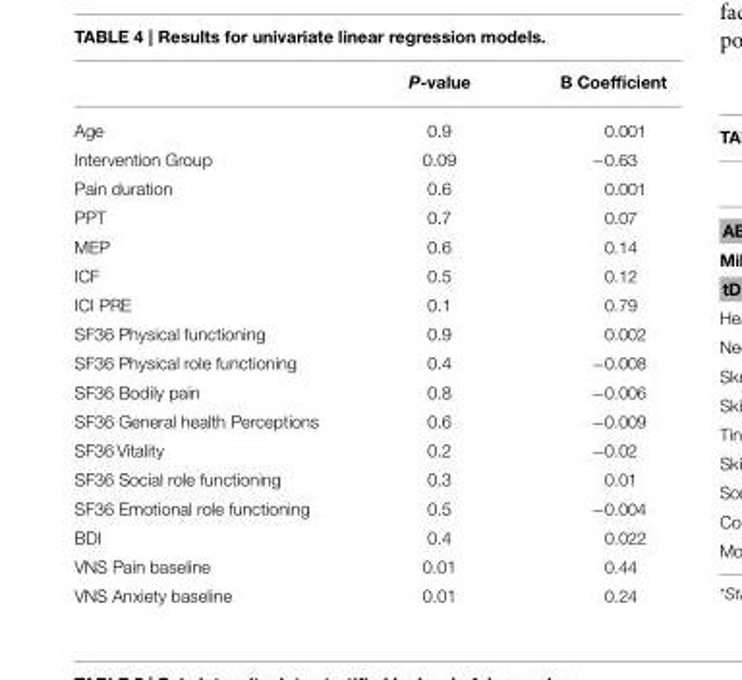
<table><thead><tr><td></td><td>P-value</td><td>B Coefficient</td></tr></thead><tbody><tr><td>Age</td><td>0.9</td><td>0.001</td></tr><tr><td>Intervention Group</td><td>0.09</td><td>−0.63</td></tr><tr><td>Pain duration</td><td>0.6</td><td>0.001</td></tr><tr><td>PPT</td><td>0.7</td><td>0.07</td></tr><tr><td>MEP</td><td>0.6</td><td>0.14</td></tr><tr><td>ICF</td><td>0.5</td><td>0.12</td></tr><tr><td>ICI PRE</td><td>0.1</td><td>0.79</td></tr><tr><td>SF36 Physical functioning</td><td>0.9</td><td>0.002</td></tr><tr><td>SF36 Physical role functioning</td><td>0.4</td><td>−0.008</td></tr><tr><td>SF36 Bodily pain</td><td>0.8</td><td>−0.006</td></tr><tr><td>SF36 General health Perceptions</td><td>0.6</td><td>−0.009</td></tr><tr><td>SF36 Vitality</td><td>0.2</td><td>−0.02</td></tr><tr><td>SF36 Social role functioning</td><td>0.3</td><td>0.01</td></tr><tr><td>SF36 Emotional role functioning</td><td>0.5</td><td>−0.004</td></tr><tr><td>BDI</td><td>0.4</td><td>0.022</td></tr><tr><td>VNS Pain baseline</td><td>0.01</td><td>0.44</td></tr><tr><td>VNS Anxiety baseline</td><td>0.01</td><td>0.24</td></tr></tbody></table>